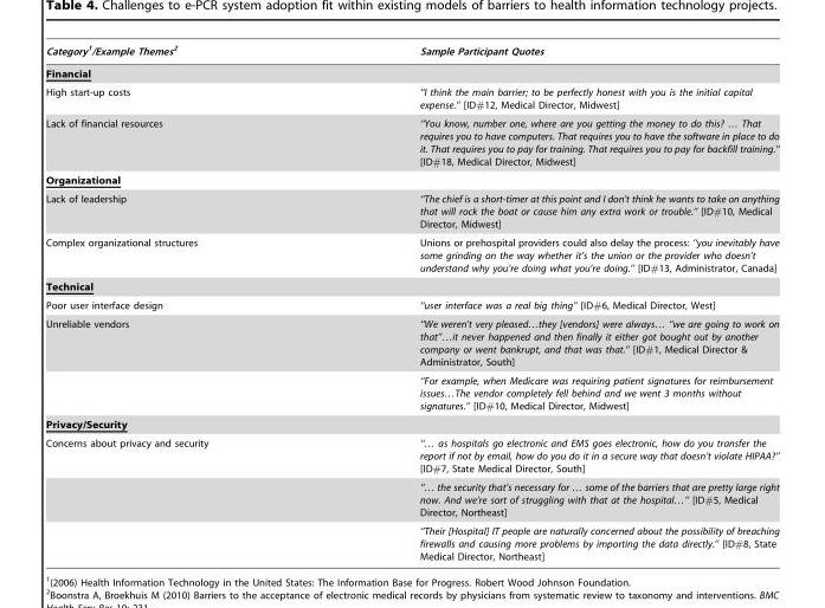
<table><thead><tr><td>Category1/Example Themes2</td><td>Sample Participant Quotes</td></tr></thead><tbody><tr><td colspan="2">Financial</td></tr><tr><td>High start-up costs</td><td>‘‘I think the main barrier; to be perfectly honest with you is the initial capital expense.’’ [ID#12, Medical Director, Midwest]</td></tr><tr><td>Lack of financial resources</td><td>‘‘You know, number one, where are you getting the money to do this? … That requires you to have computers. That requires you to have the software in place to do it. That requires you to pay for training. That requires you to pay for backfill training.’’ [ID#18, Medical Director, Midwest]</td></tr><tr><td colspan="2">Organizational</td></tr><tr><td>Lack of leadership</td><td>‘‘The chief is a short-timer at this point and I don’t think he wants to take on anything that will rock the boat or cause him any extra work or trouble.’’ [ID#10, Medical Director, Midwest]</td></tr><tr><td>Complex organizational structures</td><td>Unions or prehospital providers could also delay the process: ‘‘you inevitably have some grinding on the way whether it’s the union or the provider who doesn’t understand why you’re doing what you’re doing.’’ [ID#13, Administrator, Canada]</td></tr><tr><td colspan="2">Technical</td></tr><tr><td>Poor user interface design</td><td>‘‘user interface was a real big thing’’ [ID#6, Medical Director, West]</td></tr><tr><td rowspan="2">Unreliable vendors</td><td>‘‘We weren’t very pleased…they [vendors] were always… ‘‘we are going to work on that’’…it never happened and then finally it either got bought out by another company or went bankrupt, and that was that.’’ [ID#1, Medical Director &amp; Administrator, South]</td></tr><tr><td>‘‘For example, when Medicare was requiring patient signatures for reimbursement issues…The vendor completely fell behind and we went 3 months without signatures.’’ [ID#10, Medical Director, Midwest]</td></tr><tr><td colspan="2">Privacy/Security</td></tr><tr><td rowspan="3">Concerns about privacy and security</td><td>‘‘… as hospitals go electronic and EMS goes electronic, how do you transfer the report if not by email, how do you do it in a secure way that doesn’t violate HIPAA?’’ [ID#7, State Medical Director, South]</td></tr><tr><td>‘‘… the security that’s necessary for … some of the barriers that are pretty large right now. And we’re sort of struggling with that at the hospital…’’ [ID#5, Medical Director, Northeast]</td></tr><tr><td>‘‘Their [Hospital] IT people are naturally concerned about the possibility of breaching firewalls and causing more problems by importing the data directly.’’ [ID#8, State Medical Director, Northeast]</td></tr></tbody></table>